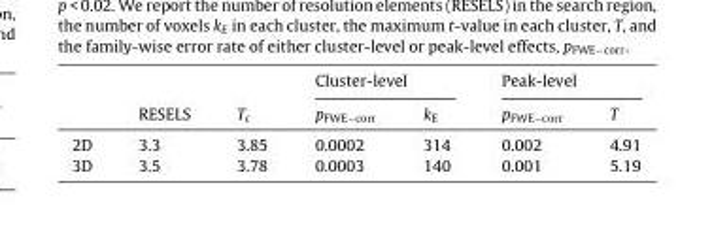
<table><thead><tr><td rowspan="2"></td><td rowspan="2">RESELS</td><td rowspan="2">T<sub>c</sub></td><td colspan="2">Cluster-level</td><td colspan="2">Peak-level</td></tr><tr><td>p<sub>FWE−corr</sub></td><td>k<sub>E</sub></td><td>p<sub>FWE−corr</sub></td><td>T</td></tr></thead><tbody><tr><td>2D</td><td>3.3</td><td>3.85</td><td>0.0002</td><td>314</td><td>0.002</td><td>4.91</td></tr><tr><td>3D</td><td>3.5</td><td>3.78</td><td>0.0003</td><td>140</td><td>0.001</td><td>5.19</td></tr></tbody></table>